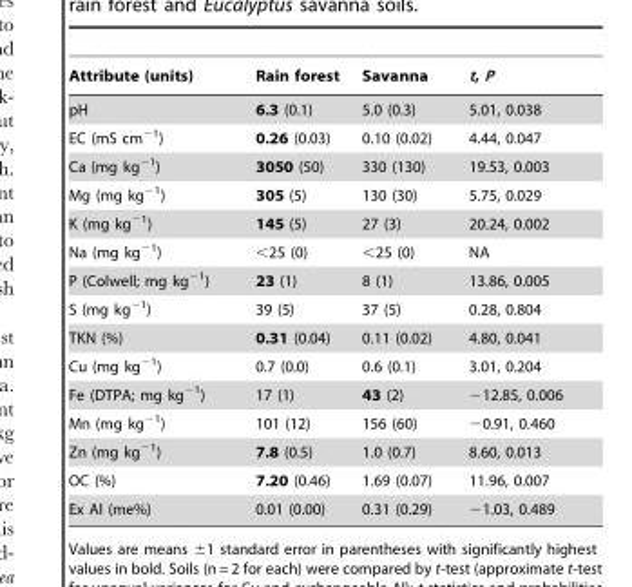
<table><thead><tr><td>Attribute (units)</td><td>Rain forest</td><td>Savanna</td><td>t, P</td></tr></thead><tbody><tr><td>pH</td><td>6.3 (0.1)</td><td>5.0 (0.3)</td><td>5.01, 0.038</td></tr><tr><td>EC (mS cm<sup>−1</sup>)</td><td>0.26 (0.03)</td><td>0.10 (0.02)</td><td>4.44, 0.047</td></tr><tr><td>Ca (mg kg<sup>−1</sup>)</td><td>3050 (50)</td><td>330 (130)</td><td>19.53, 0.003</td></tr><tr><td>Mg (mg kg<sup>−1</sup>)</td><td>305 (5)</td><td>130 (30)</td><td>5.75, 0.029</td></tr><tr><td>K (mg kg<sup>−1</sup>)</td><td>145 (5)</td><td>27 (3)</td><td>20.24, 0.002</td></tr><tr><td>Na (mg kg<sup>−1</sup>)</td><td>&lt;25 (0)</td><td>&lt;25 (0)</td><td>NA</td></tr><tr><td>P (Colwell; mg kg<sup>−1</sup>)</td><td>23 (1)</td><td>8 (1)</td><td>13.86, 0.005</td></tr><tr><td>S (mg kg<sup>−1</sup>)</td><td>39 (5)</td><td>37 (5)</td><td>0.28, 0.804</td></tr><tr><td>TKN (%)</td><td>0.31 (0.04)</td><td>0.11 (0.02)</td><td>4.80, 0.041</td></tr><tr><td>Cu (mg kg<sup>−1</sup>)</td><td>0.7 (0.0)</td><td>0.6 (0.1)</td><td>3.01, 0.204</td></tr><tr><td>Fe (DTPA; mg kg<sup>−1</sup>)</td><td>17 (1)</td><td>43 (2)</td><td>−12.85, 0.006</td></tr><tr><td>Mn (mg kg<sup>−1</sup>)</td><td>101 (12)</td><td>156 (60)</td><td>−0.91, 0.460</td></tr><tr><td>Zn (mg kg<sup>−1</sup>)</td><td>7.8 (0.5)</td><td>1.0 (0.7)</td><td>8.60, 0.013</td></tr><tr><td>OC (%)</td><td>7.20 (0.46)</td><td>1.69 (0.07)</td><td>11.96, 0.007</td></tr><tr><td>Ex Al (me%)</td><td>0.01 (0.00)</td><td>0.31 (0.29)</td><td>−1.03, 0.489</td></tr></tbody></table>